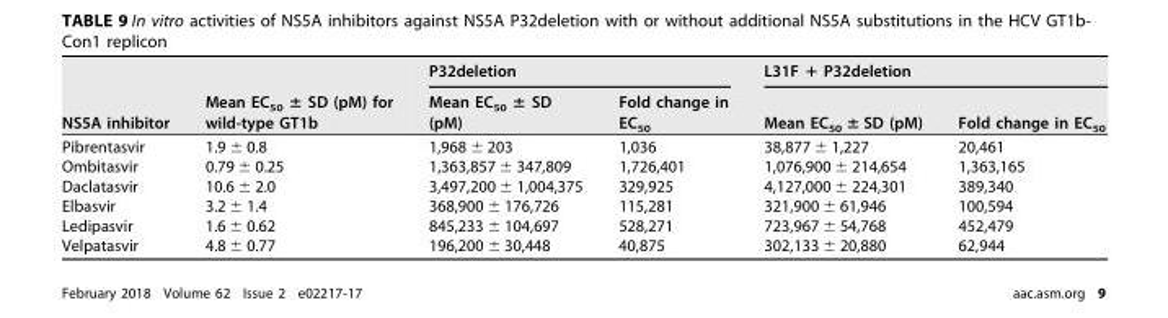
<table><thead><tr><td rowspan="2">NS5A inhibitor</td><td rowspan="2">Mean EC<sub>50</sub> ± SD (pM) for wild-type GT1b</td><td colspan="2">P32deletion</td><td colspan="2">L31F + P32deletion</td></tr><tr><td>Mean EC<sub>50</sub> ± SD (pM)</td><td>Fold change in EC<sub>50</sub></td><td>Mean EC<sub>50</sub> ± SD (pM)</td><td>Fold change in EC<sub>50</sub></td></tr></thead><tbody><tr><td>Pibrentasvir</td><td>1.9 ± 0.8</td><td>1,968 ± 203</td><td>1,036</td><td>38,877 ± 1,227</td><td>20,461</td></tr><tr><td>Ombitasvir</td><td>0.79 ± 0.25</td><td>1,363,857 ± 347,809</td><td>1,726,401</td><td>1,076,900 ± 214,654</td><td>1,363,165</td></tr><tr><td>Daclatasvir</td><td>10.6 ± 2.0</td><td>3,497,200 ± 1,004,375</td><td>329,925</td><td>4,127,000 ± 224,301</td><td>389,340</td></tr><tr><td>Elbasvir</td><td>3.2 ± 1.4</td><td>368,900 ± 176,726</td><td>115,281</td><td>321,900 ± 61,946</td><td>100,594</td></tr><tr><td>Ledipasvir</td><td>1.6 ± 0.62</td><td>845,233 ± 104,697</td><td>528,271</td><td>723,967 ± 54,768</td><td>452,479</td></tr><tr><td>Velpatasvir</td><td>4.8 ± 0.77</td><td>196,200 ± 30,448</td><td>40,875</td><td>302,133 ± 20,880</td><td>62,944</td></tr></tbody></table>